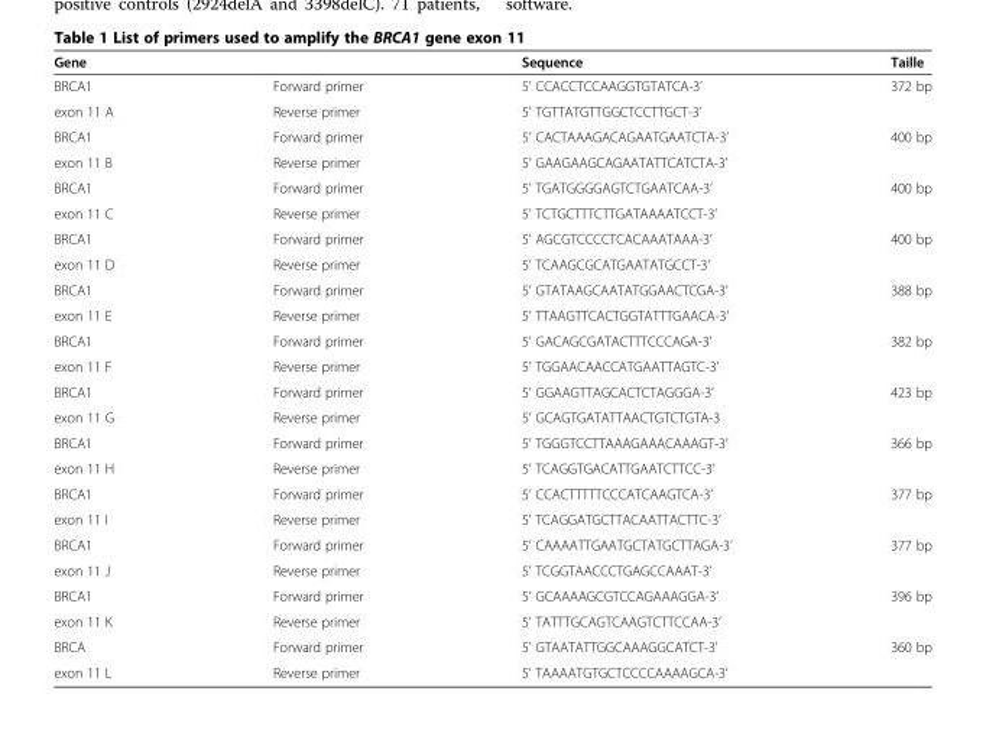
<table><thead><tr><td>Gene</td><td></td><td>Sequence</td><td>Taille</td></tr></thead><tbody><tr><td>BRCA1</td><td>Forward primer</td><td>5’ CCACCTCCAAGGTGTATCA-3’</td><td>372 bp</td></tr><tr><td>exon 11 A</td><td>Reverse primer</td><td>5’ TGTTATGTTGGCTCCTTGCT-3’</td><td></td></tr><tr><td>BRCA1</td><td>Forward primer</td><td>5’ CACTAAAGACAGAATGAATCTA-3’</td><td>400 bp</td></tr><tr><td>exon 11 B</td><td>Reverse primer</td><td>5’ GAAGAAGCAGAATATTCATCTA-3’</td><td></td></tr><tr><td>BRCA1</td><td>Forward primer</td><td>5’ TGATGGGGAGTCTGAATCAA-3’</td><td>400 bp</td></tr><tr><td>exon 11 C</td><td>Reverse primer</td><td>5’ TCTGCTTTCTTGATAAAATCCT-3’</td><td></td></tr><tr><td>BRCA1</td><td>Forward primer</td><td>5’ AGCGTCCCCTCACAAATAAA-3’</td><td>400 bp</td></tr><tr><td>exon 11 D</td><td>Reverse primer</td><td>5’ TCAAGCGCATGAATATGCCT-3’</td><td></td></tr><tr><td>BRCA1</td><td>Forward primer</td><td>5’ GTATAAGCAATATGGAACTCGA-3’</td><td>388 bp</td></tr><tr><td>exon 11 E</td><td>Reverse primer</td><td>5’ TTAAGTTCACTGGTATTTGAACA-3’</td><td></td></tr><tr><td>BRCA1</td><td>Forward primer</td><td>5’ GACAGCGATACTTTCCCAGA-3’</td><td>382 bp</td></tr><tr><td>exon 11 F</td><td>Reverse primer</td><td>5’ TGGAACAACCATGAATTAGTC-3’</td><td></td></tr><tr><td>BRCA1</td><td>Forward primer</td><td>5’ GGAAGTTAGCACTCTAGGGA-3’</td><td>423 bp</td></tr><tr><td>exon 11 G</td><td>Reverse primer</td><td>5’ GCAGTGATATTAACTGTCTGTA-3</td><td></td></tr><tr><td>BRCA1</td><td>Forward primer</td><td>5’ TGGGTCCTTAAAGAAACAAAGT-3’</td><td>366 bp</td></tr><tr><td>exon 11 H</td><td>Reverse primer</td><td>5’ TCAGGTGACATTGAATCTTCC-3’</td><td></td></tr><tr><td>BRCA1</td><td>Forward primer</td><td>5’ CCACTTTTTCCCATCAAGTCA-3’</td><td>377 bp</td></tr><tr><td>exon 11 I</td><td>Reverse primer</td><td>5’ TCAGGATGCTTACAATTACTTC-3’</td><td></td></tr><tr><td>BRCA1</td><td>Forward primer</td><td>5’ CAAAATTGAATGCTATGCTTAGA-3’</td><td>377 bp</td></tr><tr><td>exon 11 J</td><td>Reverse primer</td><td>5’ TCGGTAACCCTGAGCCAAAT-3’</td><td></td></tr><tr><td>BRCA1</td><td>Forward primer</td><td>5’ GCAAAAGCGTCCAGAAAGGA-3’</td><td>396 bp</td></tr><tr><td>exon 11 K</td><td>Reverse primer</td><td>5’ TATTTGCAGTCAAGTCTTCCAA-3’</td><td></td></tr><tr><td>BRCA</td><td>Forward primer</td><td>5’ GTAATATTGGCAAAGGCATCT-3’</td><td>360 bp</td></tr><tr><td>exon 11 L</td><td>Reverse primer</td><td>5’ TAAAATGTGCTCCCCAAAAGCA-3’</td><td></td></tr></tbody></table>